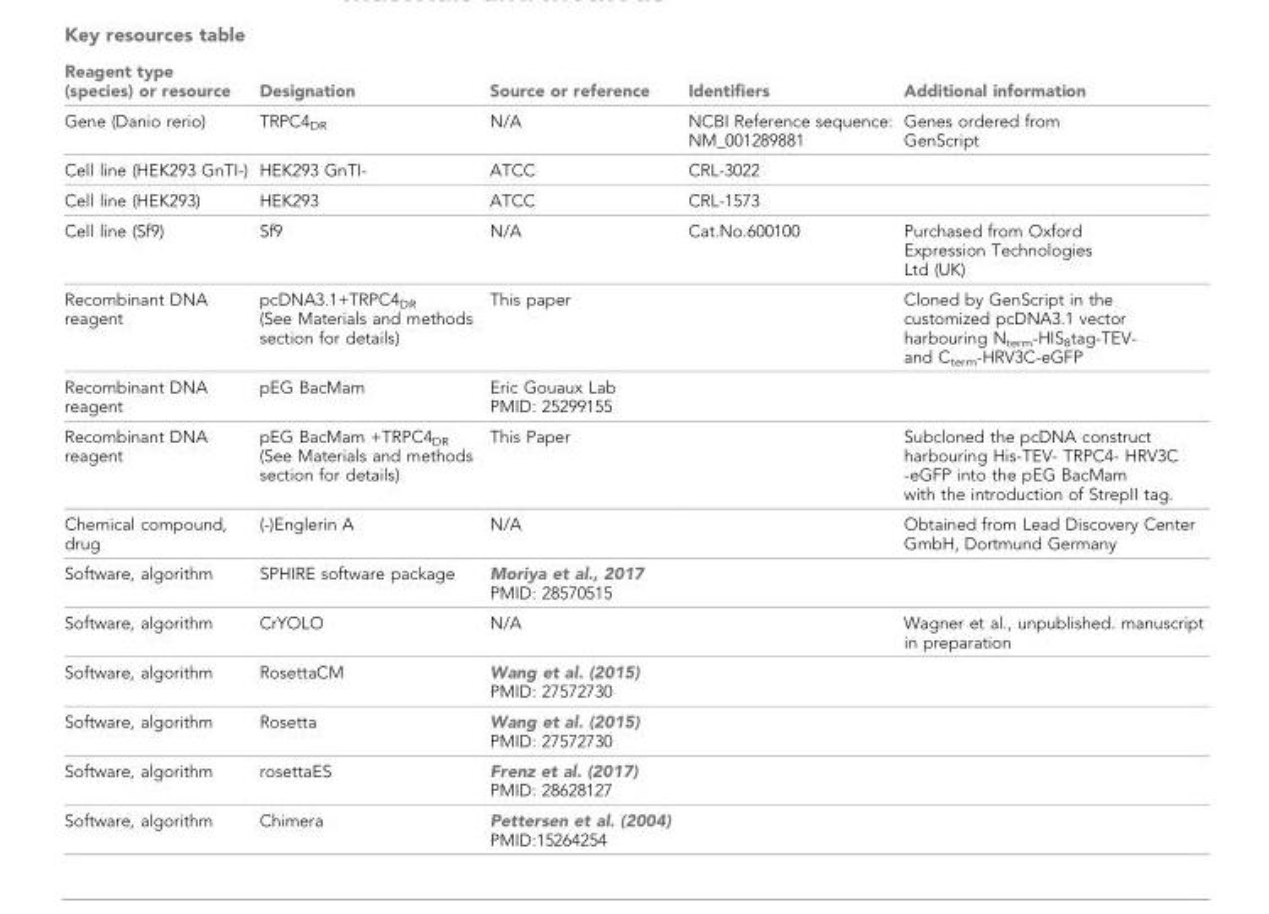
<table><thead><tr><td>Reagent type (species) or resource</td><td>Designation</td><td>Source or reference</td><td>Identifiers</td><td>Additional information</td></tr></thead><tbody><tr><td>Gene (Danio rerio)</td><td>TRPC4<sub>DR</sub></td><td>N/A</td><td>NCBI Reference sequence: NM_001289881</td><td>Genes ordered from GenScript</td></tr><tr><td>Cell line (HEK293 GnTI-)</td><td>HEK293 GnTI-</td><td>ATCC</td><td>CRL-3022</td><td></td></tr><tr><td>Cell line (HEK293)</td><td>HEK293</td><td>ATCC</td><td>CRL-1573</td><td></td></tr><tr><td>Cell line (Sf9)</td><td>Sf9</td><td>N/A</td><td>Cat.No.600100</td><td>Purchased from Oxford Expression Technologies Ltd (UK)</td></tr><tr><td>Recombinant DNA reagent</td><td>pcDNA3.1+TRPC4<sub>DR</sub> (See Materials and methods section for details)</td><td>This paper</td><td></td><td>Cloned by GenScript in the customized pcDNA3.1 vector harbouring N<sub>term</sub>-HIS<sub>8</sub>tag-TEV- and C<sub>term</sub>-HRV3C-eGFP</td></tr><tr><td>Recombinant DNA reagent</td><td>pEG BacMam</td><td>Eric Gouaux Lab PMID: 25299155</td><td></td><td></td></tr><tr><td>Recombinant DNA reagent</td><td>pEG BacMam +TRPC4<sub>DR</sub> (See Materials and methods section for details)</td><td>This Paper</td><td></td><td>Subcloned the pcDNA construct harbouring His-TEV- TRPC4- HRV3C -eGFP into the pEG BacMam with the introduction of StrepII tag.</td></tr><tr><td>Chemical compound, drug</td><td>(-)Englerin A</td><td>N/A</td><td></td><td>Obtained from Lead Discovery Center GmbH, Dortmund Germany</td></tr><tr><td>Software, algorithm</td><td>SPHIRE software package</td><td>Moriya et al., 2017 PMID: 28570515</td><td></td><td></td></tr><tr><td>Software, algorithm</td><td>CrYOLO</td><td>N/A</td><td></td><td>Wagner et al., unpublished. manuscript in preparation</td></tr><tr><td>Software, algorithm</td><td>RosettaCM</td><td>Wang et al. (2015) PMID: 27572730</td><td></td><td></td></tr><tr><td>Software, algorithm</td><td>Rosetta</td><td>Wang et al. (2015) PMID: 27572730</td><td></td><td></td></tr><tr><td>Software, algorithm</td><td>rosettaES</td><td>Frenz et al. (2017) PMID: 28628127</td><td></td><td></td></tr><tr><td>Software, algorithm</td><td>Chimera</td><td>Pettersen et al. (2004) PMID:15264254</td><td></td><td></td></tr></tbody></table>